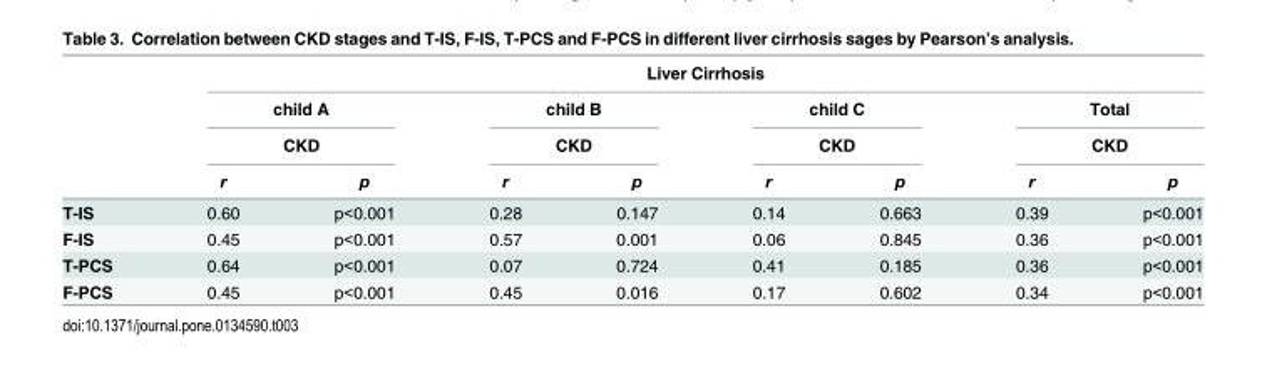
<table><thead><tr><td rowspan="4"></td><td colspan="8">Liver Cirrhosis</td></tr><tr><td rowspan="2" colspan="2">child A CKD</td><td rowspan="2" colspan="2">child B CKD</td><td rowspan="2" colspan="2">child C CKD</td><td rowspan="2" colspan="2">Total CKD</td></tr><tr></tr><tr><td>r</td><td>p</td><td>r</td><td>p</td><td>r</td><td>p</td><td>r</td><td>p</td></tr></thead><tbody><tr><td>T-IS</td><td>0.60</td><td>p&lt;0.001</td><td>0.28</td><td>0.147</td><td>0.14</td><td>0.663</td><td>0.39</td><td>p&lt;0.001</td></tr><tr><td>F-IS</td><td>0.45</td><td>p&lt;0.001</td><td>0.57</td><td>0.001</td><td>0.06</td><td>0.845</td><td>0.36</td><td>p&lt;0.001</td></tr><tr><td>T-PCS</td><td>0.64</td><td>p&lt;0.001</td><td>0.07</td><td>0.724</td><td>0.41</td><td>0.185</td><td>0.36</td><td>p&lt;0.001</td></tr><tr><td>F-PCS</td><td>0.45</td><td>p&lt;0.001</td><td>0.45</td><td>0.016</td><td>0.17</td><td>0.602</td><td>0.34</td><td>p&lt;0.001</td></tr></tbody></table>